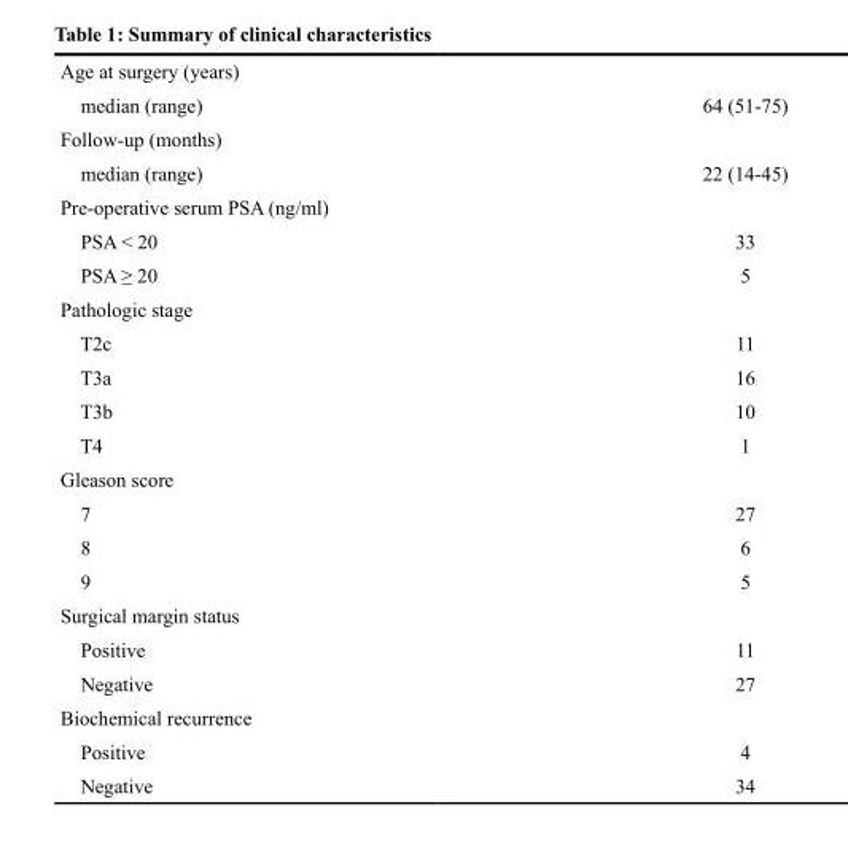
<table><tbody><tr><td colspan="2">Age at surgery (years)</td></tr><tr><td>median (range)</td><td>64 (51-75)</td></tr><tr><td colspan="2">Follow-up (months)</td></tr><tr><td>median (range)</td><td>22 (14-45)</td></tr><tr><td colspan="2">Pre-operative serum PSA (ng/ml)</td></tr><tr><td>PSA &lt; 20</td><td>33</td></tr><tr><td>PSA ≥ 20</td><td>5</td></tr><tr><td colspan="2">Pathologic stage</td></tr><tr><td>T2c</td><td>11</td></tr><tr><td>T3a</td><td>16</td></tr><tr><td>T3b</td><td>10</td></tr><tr><td>T4</td><td>1</td></tr><tr><td colspan="2">Gleason score</td></tr><tr><td>7</td><td>27</td></tr><tr><td>8</td><td>6</td></tr><tr><td>9</td><td>5</td></tr><tr><td colspan="2">Surgical margin status</td></tr><tr><td>Positive</td><td>11</td></tr><tr><td>Negative</td><td>27</td></tr><tr><td colspan="2">Biochemical recurrence</td></tr><tr><td>Positive</td><td>4</td></tr><tr><td>Negative</td><td>34</td></tr></tbody></table>